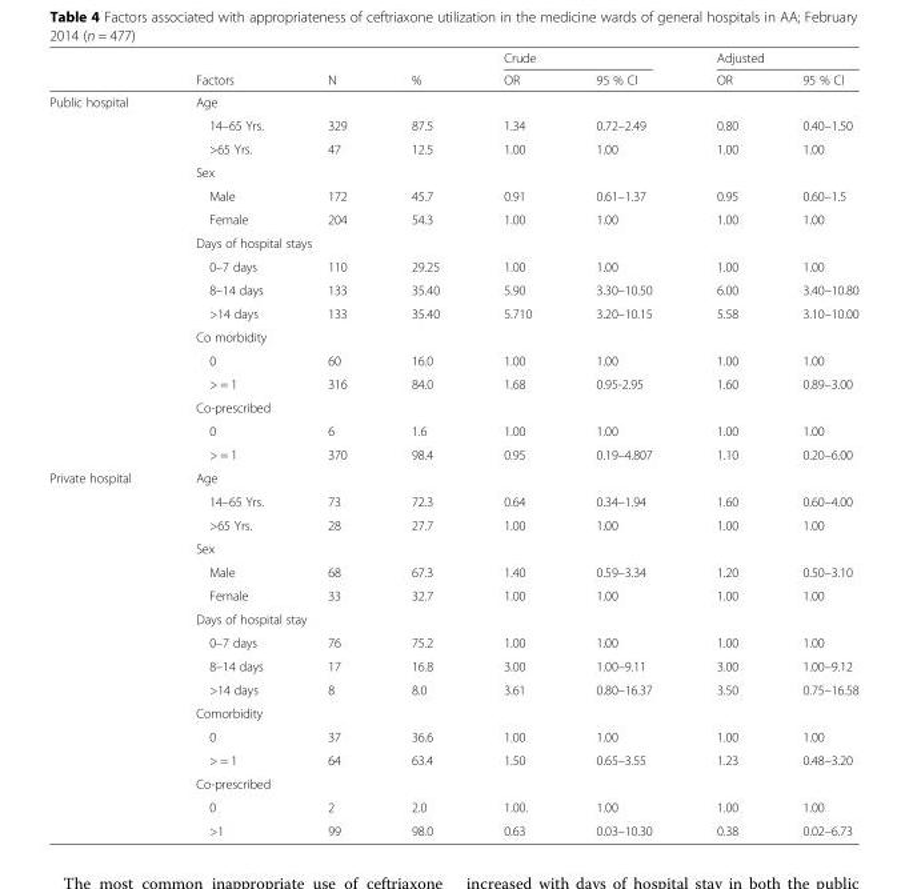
<table><thead><tr><td rowspan="2"></td><td rowspan="2">Factors</td><td rowspan="2">N</td><td rowspan="2">%</td><td colspan="2">Crude</td><td colspan="2">Adjusted</td></tr><tr><td>OR</td><td>95 % CI</td><td>OR</td><td>95 % CI</td></tr></thead><tbody><tr><td rowspan="16">Public hospital</td><td colspan="7">Age</td></tr><tr><td>14–65 Yrs.</td><td>329</td><td>87.5</td><td>1.34</td><td>0.72–2.49</td><td>0.80</td><td>0.40–1.50</td></tr><tr><td>&gt;65 Yrs.</td><td>47</td><td>12.5</td><td>1.00</td><td>1.00</td><td>1.00</td><td>1.00</td></tr><tr><td colspan="7">Sex</td></tr><tr><td>Male</td><td>172</td><td>45.7</td><td>0.91</td><td>0.61–1.37</td><td>0.95</td><td>0.60–1.5</td></tr><tr><td>Female</td><td>204</td><td>54.3</td><td>1.00</td><td>1.00</td><td>1.00</td><td>1.00</td></tr><tr><td colspan="7">Days of hospital stays</td></tr><tr><td>0–7 days</td><td>110</td><td>29.25</td><td>1.00</td><td>1.00</td><td>1.00</td><td>1.00</td></tr><tr><td>8–14 days</td><td>133</td><td>35.40</td><td>5.90</td><td>3.30–10.50</td><td>6.00</td><td>3.40–10.80</td></tr><tr><td>&gt;14 days</td><td>133</td><td>35.40</td><td>5.710</td><td>3.20–10.15</td><td>5.58</td><td>3.10–10.00</td></tr><tr><td colspan="7">Co morbidity</td></tr><tr><td>0</td><td>60</td><td>16.0</td><td>1.00</td><td>1.00</td><td>1.00</td><td>1.00</td></tr><tr><td>&gt; = 1</td><td>316</td><td>84.0</td><td>1.68</td><td>0.95-2.95</td><td>1.60</td><td>0.89–3.00</td></tr><tr><td colspan="7">Co-prescribed</td></tr><tr><td>0</td><td>6</td><td>1.6</td><td>1.00</td><td>1.00</td><td>1.00</td><td>1.00</td></tr><tr><td>&gt; = 1</td><td>370</td><td>98.4</td><td>0.95</td><td>0.19–4.807</td><td>1.10</td><td>0.20–6.00</td></tr><tr><td rowspan="16">Private hospital</td><td colspan="7">Age</td></tr><tr><td>14–65 Yrs.</td><td>73</td><td>72.3</td><td>0.64</td><td>0.34–1.94</td><td>1.60</td><td>0.60–4.00</td></tr><tr><td>&gt;65 Yrs.</td><td>28</td><td>27.7</td><td>1.00</td><td>1.00</td><td>1.00</td><td>1.00</td></tr><tr><td>Sex</td><td></td><td></td><td></td><td></td><td></td><td></td></tr><tr><td>Male</td><td>68</td><td>67.3</td><td>1.40</td><td>0.59–3.34</td><td>1.20</td><td>0.50–3.10</td></tr><tr><td>Female</td><td>33</td><td>32.7</td><td>1.00</td><td>1.00</td><td>1.00</td><td>1.00</td></tr><tr><td colspan="7">Days of hospital stay</td></tr><tr><td>0–7 days</td><td>76</td><td>75.2</td><td>1.00</td><td>1.00</td><td>1.00</td><td>1.00</td></tr><tr><td>8–14 days</td><td>17</td><td>16.8</td><td>3.00</td><td>1.00–9.11</td><td>3.00</td><td>1.00–9.12</td></tr><tr><td>&gt;14 days</td><td>8</td><td>8.0</td><td>3.61</td><td>0.80–16.37</td><td>3.50</td><td>0.75–16.58</td></tr><tr><td colspan="7">Comorbidity</td></tr><tr><td>0</td><td>37</td><td>36.6</td><td>1.00</td><td>1.00</td><td>1.00</td><td>1.00</td></tr><tr><td>&gt; = 1</td><td>64</td><td>63.4</td><td>1.50</td><td>0.65–3.55</td><td>1.23</td><td>0.48–3.20</td></tr><tr><td colspan="7">Co-prescribed</td></tr><tr><td>0</td><td>2</td><td>2.0</td><td>1.00.</td><td>1.00</td><td>1.00</td><td>1.00</td></tr><tr><td>&gt;1</td><td>99</td><td>98.0</td><td>0.63</td><td>0.03–10.30</td><td>0.38</td><td>0.02–6.73</td></tr></tbody></table>